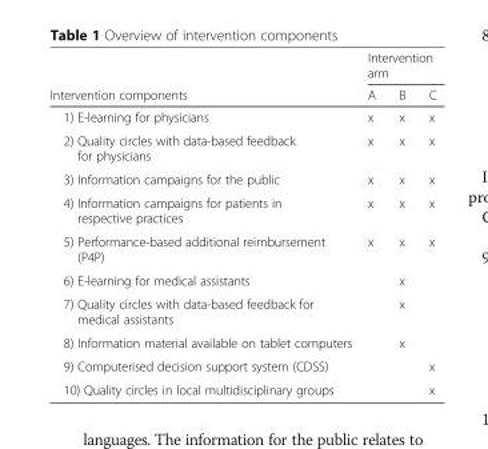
<table><thead><tr><td rowspan="2">Intervention components</td><td colspan="3">Intervention arm</td></tr><tr><td>A</td><td>B</td><td>C</td></tr></thead><tbody><tr><td>1) E-learning for physicians</td><td>x</td><td>x</td><td>x</td></tr><tr><td>2) Quality circles with data-based feedback for physicians</td><td>x</td><td>x</td><td>x</td></tr><tr><td>3) Information campaigns for the public</td><td>x</td><td>x</td><td>x</td></tr><tr><td>4) Information campaigns for patients in respective practices</td><td>x</td><td>x</td><td>x</td></tr><tr><td>5) Performance-based additional reimbursement (P4P)</td><td>x</td><td>x</td><td>x</td></tr><tr><td>6) E-learning for medical assistants</td><td></td><td>x</td><td></td></tr><tr><td>7) Quality circles with data-based feedback for medical assistants</td><td></td><td>x</td><td></td></tr><tr><td>8) Information material available on tablet computers</td><td></td><td>x</td><td></td></tr><tr><td>9) Computerised decision support system (CDSS)</td><td></td><td></td><td>x</td></tr><tr><td>10) Quality circles in local multidisciplinary groups</td><td></td><td></td><td>x</td></tr></tbody></table>